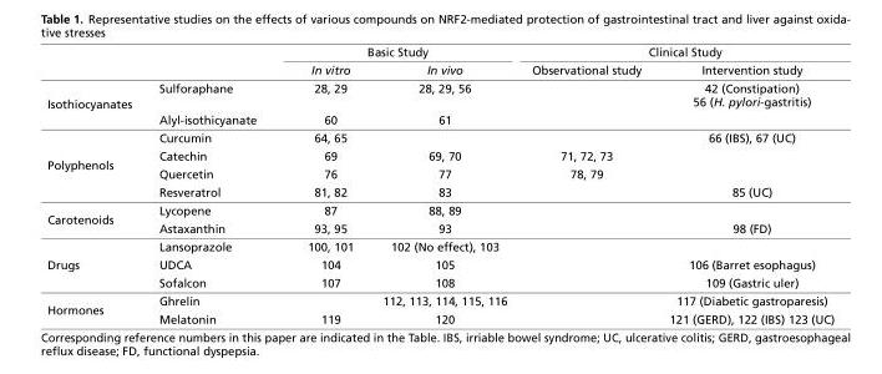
<table><thead><tr><td rowspan="2"></td><td rowspan="2"></td><td colspan="2">Basic Study</td><td colspan="2">Clinical Study</td></tr><tr><td>In vitro</td><td>In vivo</td><td>Observational study</td><td>Intervention study</td></tr></thead><tbody><tr><td rowspan="2">Isothiocyanates</td><td>Sulforaphane</td><td>28, 29</td><td>28, 29, 56</td><td></td><td>42 (Constipation) 56 (H. pylori-gastritis)</td></tr><tr><td>Alyl-isothicyanate</td><td>60</td><td>61</td><td></td><td></td></tr><tr><td rowspan="4">Polyphenols</td><td>Curcumin</td><td>64, 65</td><td></td><td></td><td>66 (IBS), 67 (UC)</td></tr><tr><td>Catechin</td><td>69</td><td>69, 70</td><td>71, 72, 73</td><td></td></tr><tr><td>Quercetin</td><td>76</td><td>77</td><td>78, 79</td><td></td></tr><tr><td>Resveratrol</td><td>81, 82</td><td>83</td><td></td><td>85 (UC)</td></tr><tr><td rowspan="2">Carotenoids</td><td>Lycopene</td><td>87</td><td>88, 89</td><td></td><td></td></tr><tr><td>Astaxanthin</td><td>93, 95</td><td>93</td><td></td><td>98 (FD)</td></tr><tr><td rowspan="3">Drugs</td><td>Lansoprazole</td><td>100, 101</td><td>102 (No effect), 103</td><td></td><td></td></tr><tr><td>UDCA</td><td>104</td><td>105</td><td></td><td>106 (Barret esophagus)</td></tr><tr><td>Sofalcon</td><td>107</td><td>108</td><td></td><td>109 (Gastric uler)</td></tr><tr><td rowspan="2">Hormones</td><td>Ghrelin</td><td></td><td>112, 113, 114, 115, 116</td><td></td><td>117 (Diabetic gastroparesis)</td></tr><tr><td>Melatonin</td><td>119</td><td>120</td><td></td><td>121 (GERD), 122 (IBS) 123 (UC)</td></tr></tbody></table>